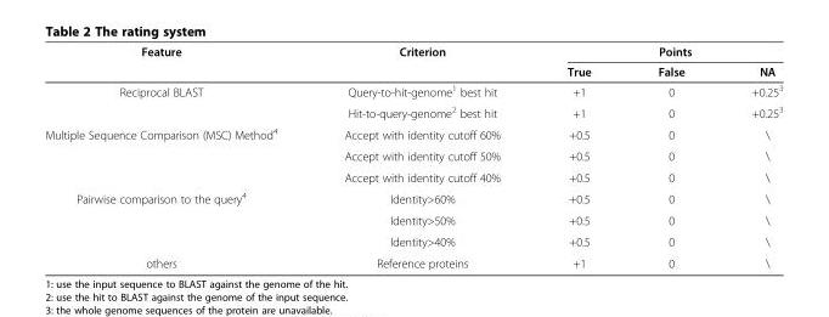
<table><thead><tr><td rowspan="2">Feature</td><td rowspan="2">Criterion</td><td colspan="3">Points</td></tr><tr><td>True</td><td>False</td><td>NA</td></tr></thead><tbody><tr><td rowspan="2">Reciprocal BLAST</td><td>Query-to-hit-genome<sup>1</sup> best hit</td><td>+1</td><td>0</td><td>+0.25<sup>3</sup></td></tr><tr><td>Hit-to-query-genome<sup>2</sup> best hit</td><td>+1</td><td>0</td><td>+0.25<sup>3</sup></td></tr><tr><td rowspan="3">Multiple Sequence Comparison (MSC) Method<sup>4</sup></td><td>Accept with identity cutoff 60%</td><td>+0.5</td><td>0</td><td>\</td></tr><tr><td>Accept with identity cutoff 50%</td><td>+0.5</td><td>0</td><td>\</td></tr><tr><td>Accept with identity cutoff 40%</td><td>+0.5</td><td>0</td><td>\</td></tr><tr><td rowspan="3">Pairwise comparison to the query<sup>4</sup></td><td>Identity&gt;60%</td><td>+0.5</td><td>0</td><td>\</td></tr><tr><td>Identity&gt;50%</td><td>+0.5</td><td>0</td><td>\</td></tr><tr><td>Identity&gt;40%</td><td>+0.5</td><td>0</td><td>\</td></tr><tr><td>others</td><td>Reference proteins</td><td>+1</td><td>0</td><td>\</td></tr></tbody></table>